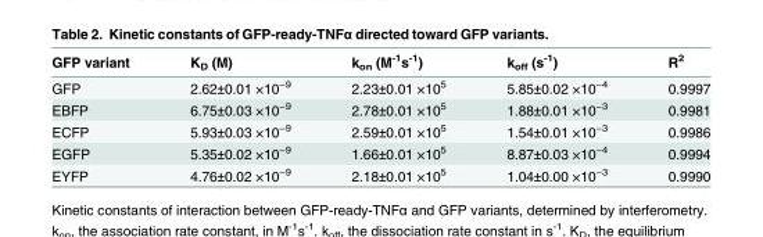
<table><thead><tr><td>GFP variant</td><td>K<sub>D</sub> (M)</td><td>k<sub>on</sub> (M<sup>-1</sup>s<sup>-1</sup>)</td><td>k<sub>off</sub> (s<sup>-1</sup>)</td><td>R<sup>2</sup></td></tr></thead><tbody><tr><td>GFP</td><td>2.62±0.01 ×10<sup>−9</sup></td><td>2.23±0.01 ×10<sup>5</sup></td><td>5.85±0.02 ×10<sup>−4</sup></td><td>0.9997</td></tr><tr><td>EBFP</td><td>6.75±0.03 ×10<sup>−9</sup></td><td>2.78±0.01 ×10<sup>5</sup></td><td>1.88±0.01 ×10<sup>−3</sup></td><td>0.9981</td></tr><tr><td>ECFP</td><td>5.93±0.03 ×10<sup>−9</sup></td><td>2.59±0.01 ×10<sup>5</sup></td><td>1.54±0.01 ×10<sup>−3</sup></td><td>0.9986</td></tr><tr><td>EGFP</td><td>5.35±0.02 ×10<sup>−9</sup></td><td>1.66±0.01 ×10<sup>5</sup></td><td>8.87±0.03 ×10<sup>−4</sup></td><td>0.9994</td></tr><tr><td>EYFP</td><td>4.76±0.02 ×10<sup>−9</sup></td><td>2.18±0.01 ×10<sup>5</sup></td><td>1.04±0.00 ×10<sup>−3</sup></td><td>0.9990</td></tr></tbody></table>